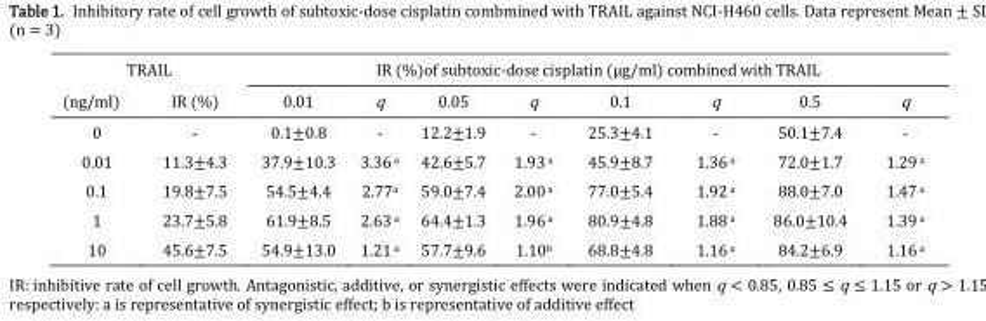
<table><thead><tr><td colspan="2">TRAIL</td><td colspan="8">IR (%)of subtoxic-dose cisplatin (µg/ml) combined with TRAIL</td></tr><tr><td>(ng/ml)</td><td>IR (%)</td><td>0.01</td><td>q</td><td>0.05</td><td>q</td><td>0.1</td><td>q</td><td>0.5</td><td>q</td></tr></thead><tbody><tr><td>0</td><td>-</td><td>0.1±0.8</td><td>-</td><td>12.2±1.9</td><td>-</td><td>25.3±4.1</td><td>-</td><td>50.1±7.4</td><td>-</td></tr><tr><td>0.01</td><td>11.3±4.3</td><td>37.9±10.3</td><td>3.36 <sup>a</sup></td><td>42.6±5.7</td><td>1.93 <sup>a</sup></td><td>45.9±8.7</td><td>1.36 <sup>a</sup></td><td>72.0±1.7</td><td>1.29 <sup>a</sup></td></tr><tr><td>0.1</td><td>19.8±7.5</td><td>54.5±4.4</td><td>2.77<sup>a</sup></td><td>59.0±7.4</td><td>2.00 <sup>a</sup></td><td>77.0±5.4</td><td>1.92 <sup>a</sup></td><td>88.0±7.0</td><td>1.47 <sup>a</sup></td></tr><tr><td>1</td><td>23.7±5.8</td><td>61.9±8.5</td><td>2.63 <sup>a</sup></td><td>64.4±1.3</td><td>1.96 <sup>a</sup></td><td>80.9±4.8</td><td>1.88 <sup>a</sup></td><td>86.0±10.4</td><td>1.39 <sup>a</sup></td></tr><tr><td>10</td><td>45.6±7.5</td><td>54.9±13.0</td><td>1.21 <sup>a</sup></td><td>57.7±9.6</td><td>1.10<sup>b</sup></td><td>68.8±4.8</td><td>1.16 <sup>a</sup></td><td>84.2±6.9</td><td>1.16 <sup>a</sup></td></tr></tbody></table>